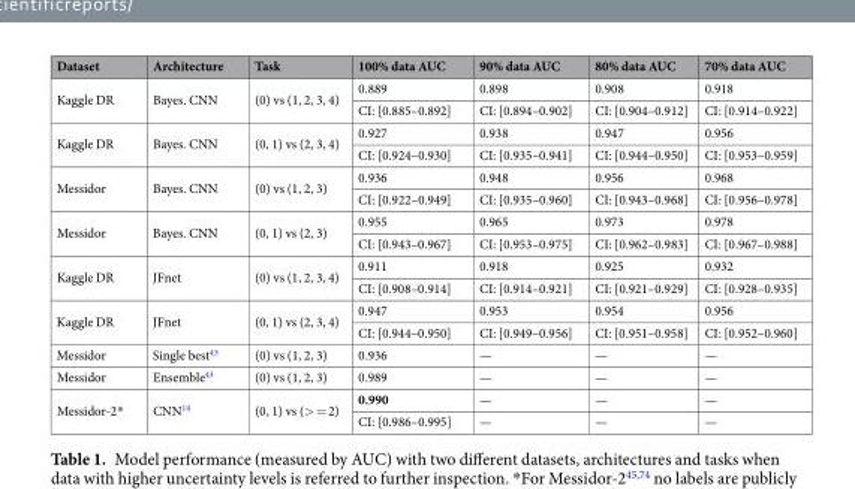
<table><thead><tr><td>Dataset</td><td>Architecture</td><td>Task</td><td>100% data AUC</td><td>90% data AUC</td><td>80% data AUC</td><td>70% data AUC</td></tr></thead><tbody><tr><td rowspan="2">Kaggle DR</td><td rowspan="2">Bayes. CNN</td><td rowspan="2">(0) vs (1, 2, 3, 4)</td><td>0.889</td><td>0.898</td><td>0.908</td><td>0.918</td></tr><tr><td>CI: [0.885–0.892]</td><td>CI: [0.894–0.902]</td><td>CI: [0.904–0.912]</td><td>CI: [0.914–0.922]</td></tr><tr><td rowspan="2">Kaggle DR</td><td rowspan="2">Bayes. CNN</td><td rowspan="2">(0, 1) vs (2, 3, 4)</td><td>0.927</td><td>0.938</td><td>0.947</td><td>0.956</td></tr><tr><td>CI: [0.924–0.930]</td><td>CI: [0.935–0.941]</td><td>CI: [0.944–0.950]</td><td>CI: [0.953–0.959]</td></tr><tr><td rowspan="2">Messidor</td><td rowspan="2">Bayes. CNN</td><td rowspan="2">(0) vs (1, 2, 3)</td><td>0.936</td><td>0.948</td><td>0.956</td><td>0.968</td></tr><tr><td>CI: [0.922–0.949]</td><td>CI: [0.935–0.960]</td><td>CI: [0.943–0.968]</td><td>CI: [0.956–0.978]</td></tr><tr><td rowspan="2">Messidor</td><td rowspan="2">Bayes. CNN</td><td rowspan="2">(0, 1) vs (2, 3)</td><td>0.955</td><td>0.965</td><td>0.973</td><td>0.978</td></tr><tr><td>CI: [0.943–0.967]</td><td>CI: [0.953–0.975]</td><td>CI: [0.962–0.983]</td><td>CI: [0.967–0.988]</td></tr><tr><td rowspan="2">Kaggle DR</td><td rowspan="2">JFnet</td><td rowspan="2">(0) vs (1, 2, 3, 4)</td><td>0.911</td><td>0.918</td><td>0.925</td><td>0.932</td></tr><tr><td>CI: [0.908–0.914]</td><td>CI: [0.914–0.921]</td><td>CI: [0.921–0.929]</td><td>CI: [0.928–0.935]</td></tr><tr><td rowspan="2">Kaggle DR</td><td rowspan="2">JFnet</td><td rowspan="2">(0, 1) vs (2, 3, 4)</td><td>0.947</td><td>0.953</td><td>0.954</td><td>0.956</td></tr><tr><td>CI: [0.944–0.950]</td><td>CI: [0.949–0.956]</td><td>CI: [0.951–0.958]</td><td>CI: [0.952–0.960]</td></tr><tr><td>Messidor</td><td>Single best<sup>43</sup></td><td>(0) vs (1, 2, 3)</td><td>0.936</td><td>—</td><td>—</td><td>—</td></tr><tr><td>Messidor</td><td>Ensemble<sup>43</sup></td><td>(0) vs (1, 2, 3)</td><td>0.989</td><td>—</td><td>—</td><td>—</td></tr><tr><td rowspan="2">Messidor-2*</td><td rowspan="2">CNN<sup>14</sup></td><td rowspan="2">(0, 1) vs (&gt; = 2)</td><td>0.990</td><td>—</td><td>—</td><td>—</td></tr><tr><td>CI: [0.986–0.995]</td><td>—</td><td>—</td><td>—</td></tr></tbody></table>